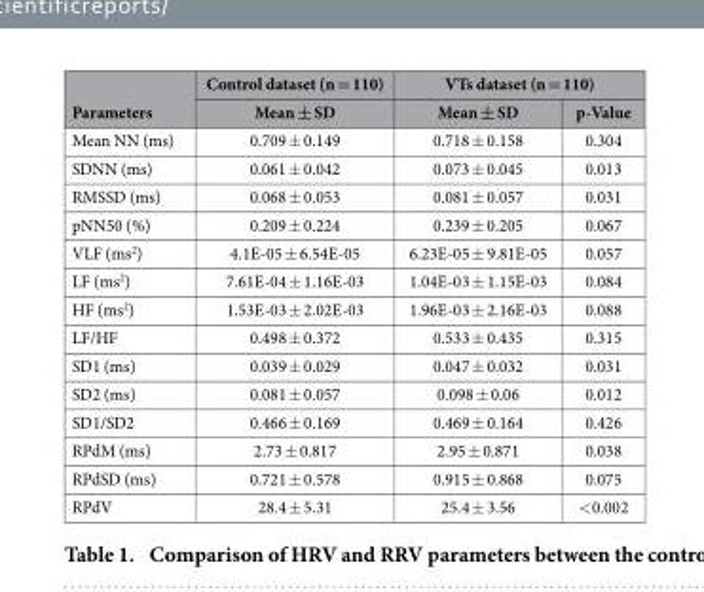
<table><thead><tr><td rowspan="2">Parameters</td><td rowspan="2">Control dataset (n = 110) Mean ± SD</td><td colspan="2">VTs dataset (n = 110)</td></tr><tr><td>Mean ± SD</td><td>p-Value</td></tr></thead><tbody><tr><td>Mean NN (ms)</td><td>0.709 ± 0.149</td><td>0.718 ± 0.158</td><td>0.304</td></tr><tr><td>SDNN (ms)</td><td>0.061 ± 0.042</td><td>0.073 ± 0.045</td><td>0.013</td></tr><tr><td>RMSSD (ms)</td><td>0.068 ± 0.053</td><td>0.081 ± 0.057</td><td>0.031</td></tr><tr><td>pNN50 (%)</td><td>0.209 ± 0.224</td><td>0.239 ± 0.205</td><td>0.067</td></tr><tr><td>VLF (ms<sup>2</sup>)</td><td>4.1E-05 ± 6.54E-05</td><td>6.23E-05 ± 9.81E-05</td><td>0.057</td></tr><tr><td>LF (ms<sup>2</sup>)</td><td>7.61E-04 ± 1.16E-03</td><td>1.04E-03 ± 1.15E-03</td><td>0.084</td></tr><tr><td>HF (ms<sup>2</sup>)</td><td>1.53E-03 ± 2.02E-03</td><td>1.96E-03 ± 2.16E-03</td><td>0.088</td></tr><tr><td>LF/HF</td><td>0.498 ± 0.372</td><td>0.533 ± 0.435</td><td>0.315</td></tr><tr><td>SD1 (ms)</td><td>0.039 ± 0.029</td><td>0.047 ± 0.032</td><td>0.031</td></tr><tr><td>SD2 (ms)</td><td>0.081 ± 0.057</td><td>0.098 ± 0.06</td><td>0.012</td></tr><tr><td>SD1/SD2</td><td>0.466 ± 0.169</td><td>0.469 ± 0.164</td><td>0.426</td></tr><tr><td>RPdM (ms)</td><td>2.73 ± 0.817</td><td>2.95 ± 0.871</td><td>0.038</td></tr><tr><td>RPdSD (ms)</td><td>0.721 ± 0.578</td><td>0.915 ± 0.868</td><td>0.075</td></tr><tr><td>RPdV</td><td>28.4 ± 5.31</td><td>25.4 ± 3.56</td><td>&lt; 0.002</td></tr></tbody></table>